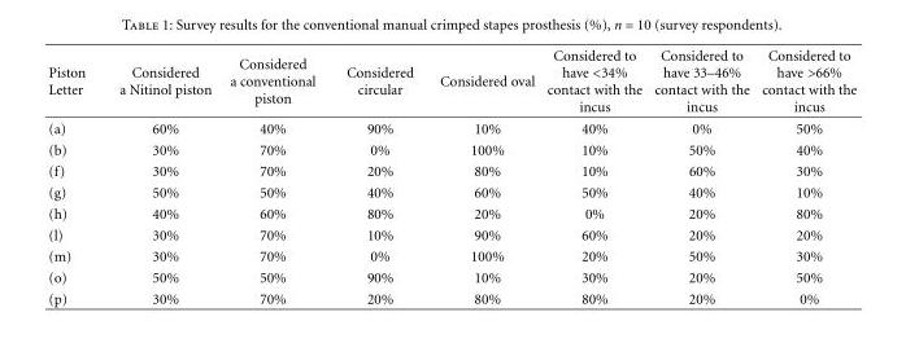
<table><thead><tr><td>Piston Letter</td><td>Considered a Nitinol piston</td><td>Considered a conventional piston</td><td>Considered circular</td><td>Considered oval</td><td>Considered to have &lt;34% contact with the incus</td><td>Considered to have 33–46% contact with the incus</td><td>Considered to have &gt;66% contact with the incus</td></tr></thead><tbody><tr><td>(a)</td><td>60%</td><td>40%</td><td>90%</td><td>10%</td><td>40%</td><td>0%</td><td>50%</td></tr><tr><td>(b)</td><td>30%</td><td>70%</td><td>0%</td><td>100%</td><td>10%</td><td>50%</td><td>40%</td></tr><tr><td>(f)</td><td>30%</td><td>70%</td><td>20%</td><td>80%</td><td>10%</td><td>60%</td><td>30%</td></tr><tr><td>(g)</td><td>50%</td><td>50%</td><td>40%</td><td>60%</td><td>50%</td><td>40%</td><td>10%</td></tr><tr><td>(h)</td><td>40%</td><td>60%</td><td>80%</td><td>20%</td><td>0%</td><td>20%</td><td>80%</td></tr><tr><td>(l)</td><td>30%</td><td>70%</td><td>10%</td><td>90%</td><td>60%</td><td>20%</td><td>20%</td></tr><tr><td>(m)</td><td>30%</td><td>70%</td><td>0%</td><td>100%</td><td>20%</td><td>50%</td><td>30%</td></tr><tr><td>(o)</td><td>50%</td><td>50%</td><td>90%</td><td>10%</td><td>30%</td><td>20%</td><td>50%</td></tr><tr><td>(p)</td><td>30%</td><td>70%</td><td>20%</td><td>80%</td><td>80%</td><td>20%</td><td>0%</td></tr></tbody></table>